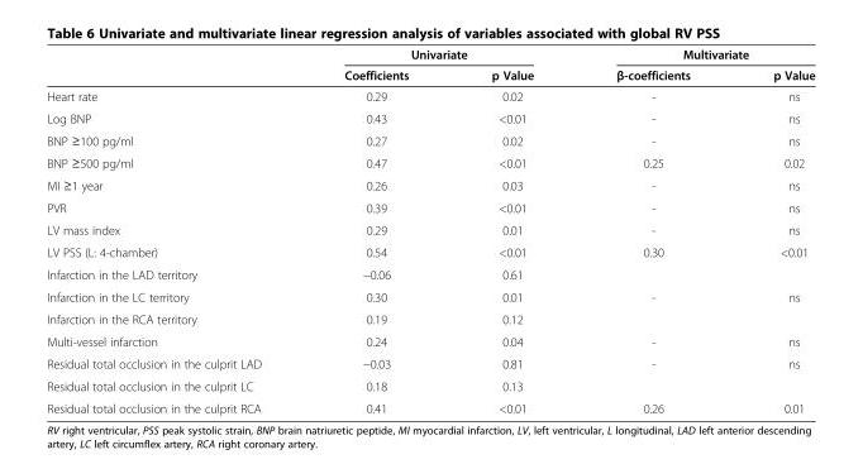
<table><thead><tr><td rowspan="2"></td><td colspan="2">Univariate</td><td colspan="2">Multivariate</td></tr><tr><td>Coefficients</td><td>p Value</td><td>β-coefficients</td><td>p Value</td></tr></thead><tbody><tr><td>Heart rate</td><td>0.29</td><td>0.02</td><td>-</td><td>ns</td></tr><tr><td>Log BNP</td><td>0.43</td><td>&lt;0.01</td><td>-</td><td>ns</td></tr><tr><td>BNP ≥100 pg/ml</td><td>0.27</td><td>0.02</td><td>-</td><td>ns</td></tr><tr><td>BNP ≥500 pg/ml</td><td>0.47</td><td>&lt;0.01</td><td>0.25</td><td>0.02</td></tr><tr><td>MI ≥1 year</td><td>0.26</td><td>0.03</td><td>-</td><td>ns</td></tr><tr><td>PVR</td><td>0.39</td><td>&lt;0.01</td><td>-</td><td>ns</td></tr><tr><td>LV mass index</td><td>0.29</td><td>0.01</td><td>-</td><td>ns</td></tr><tr><td>LV PSS (L: 4-chamber)</td><td>0.54</td><td>&lt;0.01</td><td>0.30</td><td>&lt;0.01</td></tr><tr><td>Infarction in the LAD territory</td><td>−0.06</td><td>0.61</td><td></td><td></td></tr><tr><td>Infarction in the LC territory</td><td>0.30</td><td>0.01</td><td>-</td><td>ns</td></tr><tr><td>Infarction in the RCA territory</td><td>0.19</td><td>0.12</td><td></td><td></td></tr><tr><td>Multi-vessel infarction</td><td>0.24</td><td>0.04</td><td>-</td><td>ns</td></tr><tr><td>Residual total occlusion in the culprit LAD</td><td>−0.03</td><td>0.81</td><td>-</td><td>ns</td></tr><tr><td>Residual total occlusion in the culprit LC</td><td>0.18</td><td>0.13</td><td></td><td></td></tr><tr><td>Residual total occlusion in the culprit RCA</td><td>0.41</td><td>&lt;0.01</td><td>0.26</td><td>0.01</td></tr></tbody></table>